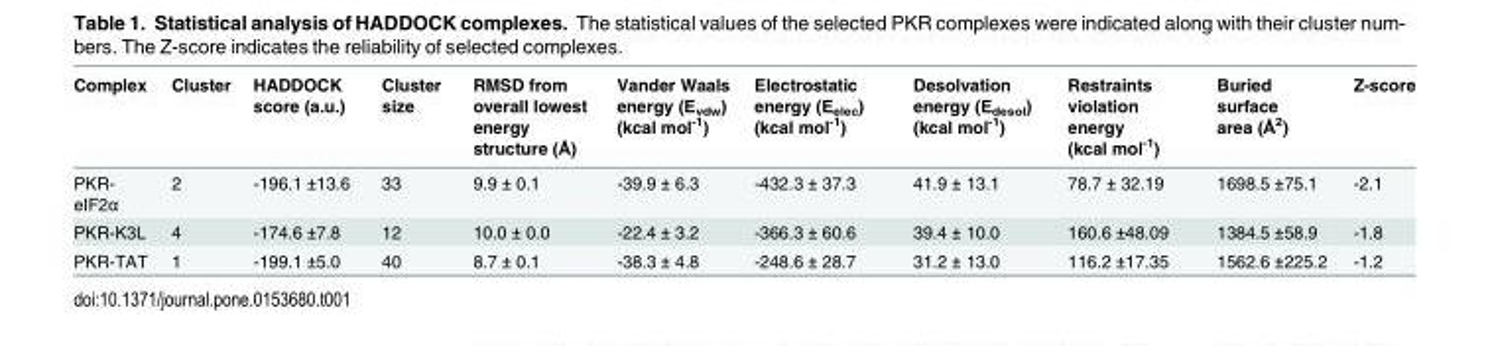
<table><thead><tr><td>Complex</td><td>Cluster</td><td>HADDOCK score (a.u.)</td><td>Cluster size</td><td>RMSD from overall lowest energy structure (Å)</td><td>Vander Waals energy (E<sub>vdw</sub>) (kcal mol<sup>-1</sup>)</td><td>Electrostatic energy (E<sub>elec</sub>) (kcal mol<sup>-1</sup>)</td><td>Desolvation energy (E<sub>desol</sub>) (kcal mol<sup>-1</sup>)</td><td>Restraints violation energy (kcal mol<sup>-1</sup>)</td><td>Buried surface area (Å<sup>2</sup>)</td><td>Z-score</td></tr></thead><tbody><tr><td>PKR- eIF2α</td><td>2</td><td>-196.1 ±13.6</td><td>33</td><td>9.9 ± 0.1</td><td>-39.9 ± 6.3</td><td>-432.3 ± 37.3</td><td>41.9 ± 13.1</td><td>78.7 ± 32.19</td><td>1698.5 ±75.1</td><td>-2.1</td></tr><tr><td>PKR-K3L</td><td>4</td><td>-174.6 ±7.8</td><td>12</td><td>10.0 ± 0.0</td><td>-22.4 ± 3.2</td><td>-366.3 ± 60.6</td><td>39.4 ± 10.0</td><td>160.6 ±48.09</td><td>1384.5 ±58.9</td><td>-1.8</td></tr><tr><td>PKR-TAT</td><td>1</td><td>-199.1 ±5.0</td><td>40</td><td>8.7 ± 0.1</td><td>-38.3 ± 4.8</td><td>-248.6 ± 28.7</td><td>31.2 ± 13.0</td><td>116.2 ±17.35</td><td>1562.6 ±225.2</td><td>-1.2</td></tr></tbody></table>